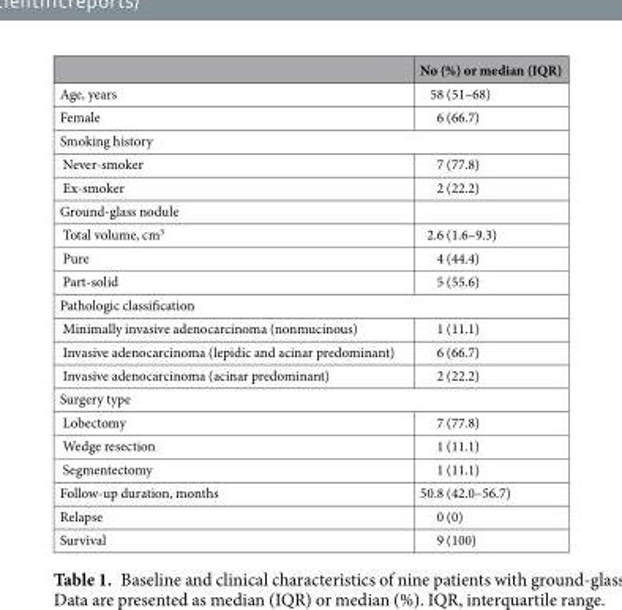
<table><thead><tr><td></td><td>No (%) or median (IQR)</td></tr></thead><tbody><tr><td>Age, years</td><td>58 (51–68)</td></tr><tr><td>Female</td><td>6 (66.7)</td></tr><tr><td colspan="2">Smoking history</td></tr><tr><td>Never-smoker</td><td>7 (77.8)</td></tr><tr><td>Ex-smoker</td><td>2 (22.2)</td></tr><tr><td colspan="2">Ground-glass nodule</td></tr><tr><td>Total volume, cm<sup>3</sup></td><td>2.6 (1.6–9.3)</td></tr><tr><td>Pure</td><td>4 (44.4)</td></tr><tr><td>Part-solid</td><td>5 (55.6)</td></tr><tr><td colspan="2">Pathologic classification</td></tr><tr><td>Minimally invasive adenocarcinoma (nonmucinous)</td><td>1 (11.1)</td></tr><tr><td>Invasive adenocarcinoma (lepidic and acinar predominant)</td><td>6 (66.7)</td></tr><tr><td>Invasive adenocarcinoma (acinar predominant)</td><td>2 (22.2)</td></tr><tr><td colspan="2">Surgery type</td></tr><tr><td>Lobectomy</td><td>7 (77.8)</td></tr><tr><td>Wedge resection</td><td>1 (11.1)</td></tr><tr><td>Segmentectomy</td><td>1 (11.1)</td></tr><tr><td>Follow-up duration, months</td><td>50.8 (42.0–56.7)</td></tr><tr><td>Relapse</td><td>0 (0)</td></tr><tr><td>Survival</td><td>9 (100)</td></tr></tbody></table>